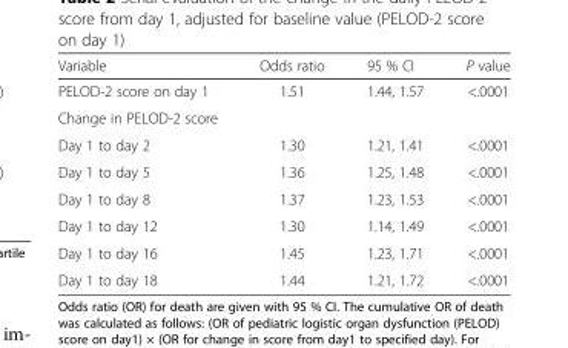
<table><thead><tr><td>Variable</td><td>Odds ratio</td><td>95 % CI</td><td>P value</td></tr></thead><tbody><tr><td>PELOD-2 score on day 1</td><td>1.51</td><td>1.44, 1.57</td><td>&lt;.0001</td></tr><tr><td colspan="4">Change in PELOD-2 score</td></tr><tr><td>Day 1 to day 2</td><td>1.30</td><td>1.21, 1.41</td><td>&lt;.0001</td></tr><tr><td>Day 1 to day 5</td><td>1.36</td><td>1.25, 1.48</td><td>&lt;.0001</td></tr><tr><td>Day 1 to day 8</td><td>1.37</td><td>1.23, 1.53</td><td>&lt;.0001</td></tr><tr><td>Day 1 to day 12</td><td>1.30</td><td>1.14, 1.49</td><td>&lt;.0001</td></tr><tr><td>Day 1 to day 16</td><td>1.45</td><td>1.23, 1.71</td><td>&lt;.0001</td></tr><tr><td>Day 1 to day 18</td><td>1.44</td><td>1.21, 1.72</td><td>&lt;.0001</td></tr></tbody></table>